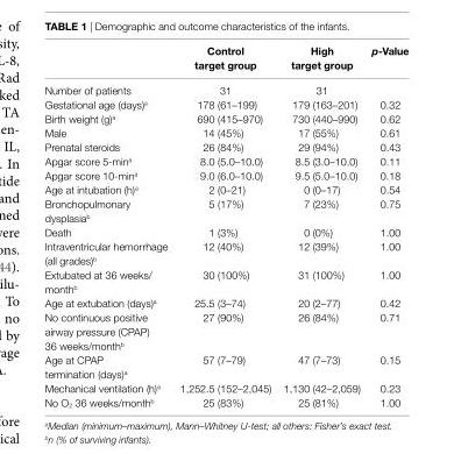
<table><thead><tr><td></td><td>Control target group</td><td>High target group</td><td>p-Value</td></tr></thead><tbody><tr><td>Number of patients</td><td>31</td><td>31</td><td></td></tr><tr><td>Gestational age (days)<sup>a</sup></td><td>178 (61–199)</td><td>179 (163–201)</td><td>0.32</td></tr><tr><td>Birth weight (g)<sup>a</sup></td><td>690 (415–970)</td><td>730 (440–990)</td><td>0.62</td></tr><tr><td>Male</td><td>14 (45%)</td><td>17 (55%)</td><td>0.61</td></tr><tr><td>Prenatal steroids</td><td>26 (84%)</td><td>29 (94%)</td><td>0.43</td></tr><tr><td>Apgar score 5-min<sup>a</sup></td><td>8.0 (5.0–10.0)</td><td>8.5 (3.0–10.0)</td><td>0.11</td></tr><tr><td>Apgar score 10-min<sup>a</sup></td><td>9.0 (6.0–10.0)</td><td>9.5 (5.0–10.0)</td><td>0.18</td></tr><tr><td>Age at intubation (h)<sup>a</sup></td><td>2 (0–21)</td><td>0 (0–17)</td><td>0.54</td></tr><tr><td>Bronchopulmonary dysplasia<sup>b</sup></td><td>5 (17%)</td><td>7 (23%)</td><td>0.75</td></tr><tr><td>Death</td><td>1 (3%)</td><td>0 (0%)</td><td>1.00</td></tr><tr><td>Intraventricular hemorrhage (all grades)<sup>b</sup></td><td>12 (40%)</td><td>12 (39%)</td><td>1.00</td></tr><tr><td>Extubated at 36 weeks/ month<sup>b</sup></td><td>30 (100%)</td><td>31 (100%)</td><td>1.00</td></tr><tr><td>Age at extubation (days)<sup>a</sup></td><td>25.5 (3–74)</td><td>20 (2–77)</td><td>0.42</td></tr><tr><td>No continuous positive airway pressure (CPAP) 36 weeks/month<sup>b</sup></td><td>27 (90%)</td><td>26 (84%)</td><td>0.71</td></tr><tr><td>Age at CPAP termination (days)<sup>a</sup></td><td>57 (7–79)</td><td>47 (7–73)</td><td>0.15</td></tr><tr><td>Mechanical ventilation (h)<sup>a</sup></td><td>1,252.5 (152–2,045)</td><td>1,130 (42–2,059)</td><td>0.23</td></tr><tr><td>No O<sub>2</sub> 36 weeks/month<sup>b</sup></td><td>25 (83%)</td><td>25 (81%)</td><td>1.00</td></tr></tbody></table>